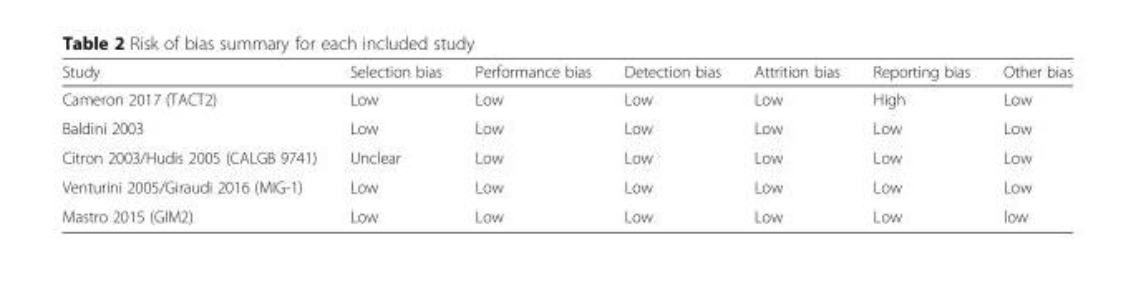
<table><thead><tr><td>Study</td><td>Selection bias</td><td>Performance bias</td><td>Detection bias</td><td>Attrition bias</td><td>Reporting bias</td><td>Other bias</td></tr></thead><tbody><tr><td>Cameron 2017 (TACT2)</td><td>Low</td><td>Low</td><td>Low</td><td>Low</td><td>High</td><td>Low</td></tr><tr><td>Baldini 2003</td><td>Low</td><td>Low</td><td>Low</td><td>Low</td><td>Low</td><td>Low</td></tr><tr><td>Citron 2003/Hudis 2005 (CALGB 9741)</td><td>Unclear</td><td>Low</td><td>Low</td><td>Low</td><td>Low</td><td>Low</td></tr><tr><td>Venturini 2005/Giraudi 2016 (MIG-1)</td><td>Low</td><td>Low</td><td>Low</td><td>Low</td><td>Low</td><td>Low</td></tr><tr><td>Mastro 2015 (GIM2)</td><td>Low</td><td>Low</td><td>Low</td><td>Low</td><td>Low</td><td>low</td></tr></tbody></table>